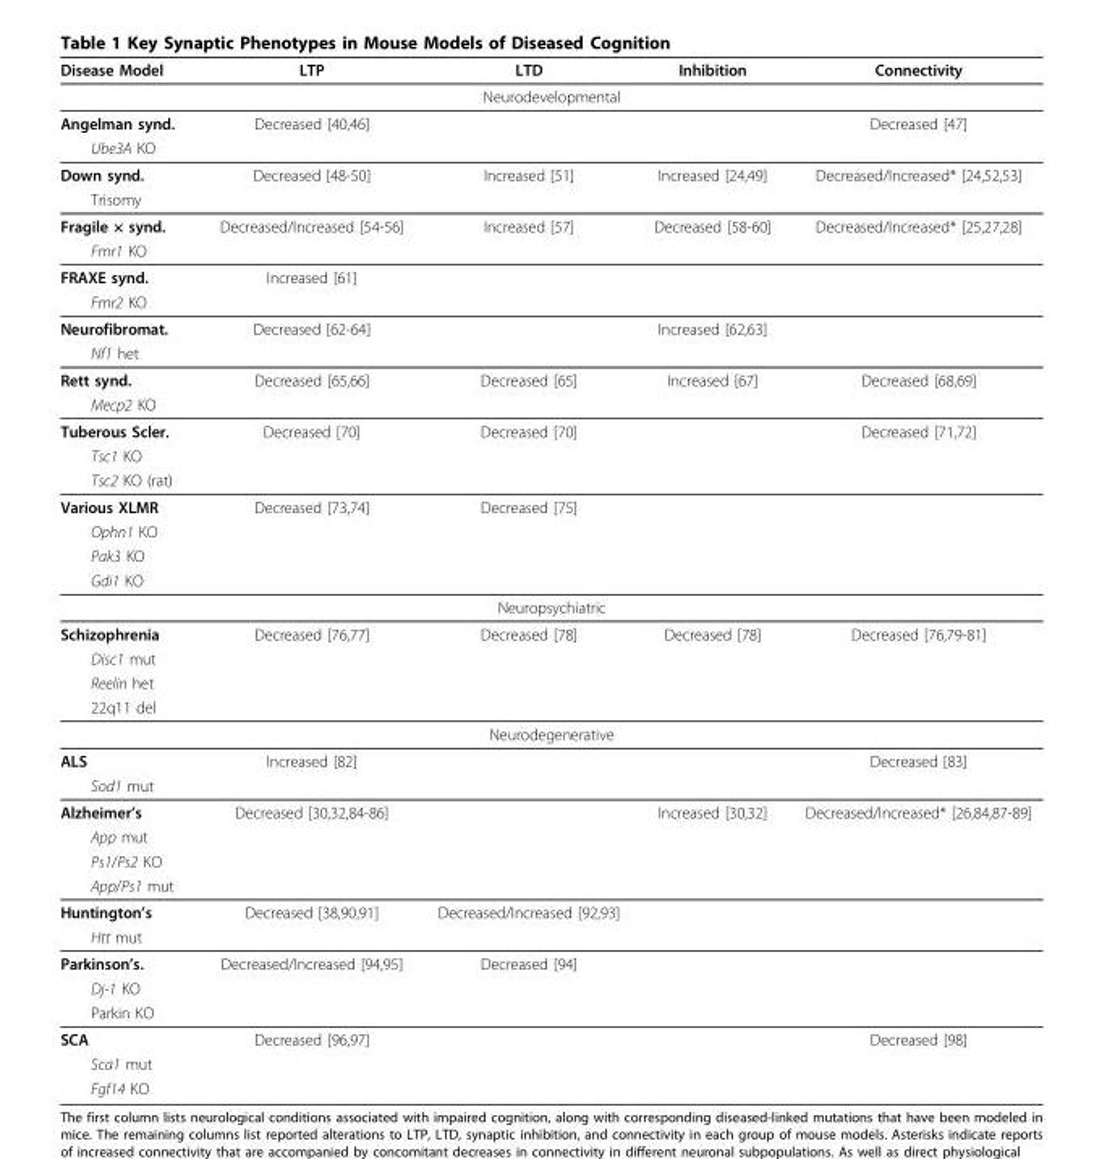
<table><thead><tr><td>Disease Model</td><td>LTP</td><td>LTD</td><td>Inhibition</td><td>Connectivity</td></tr></thead><tbody><tr><td colspan="5">Neurodevelopmental</td></tr><tr><td>Angelman synd.</td><td>Decreased [40,46]</td><td></td><td></td><td>Decreased [47]</td></tr><tr><td colspan="5">Ube3A KO</td></tr><tr><td>Down synd.</td><td>Decreased [48-50]</td><td>Increased [51]</td><td>Increased [24,49]</td><td>Decreased/Increased* [24,52,53]</td></tr><tr><td colspan="5">Trisomy</td></tr><tr><td>Fragile × synd.</td><td>Decreased/Increased [54-56]</td><td>Increased [57]</td><td>Decreased [58-60]</td><td>Decreased/Increased* [25,27,28]</td></tr><tr><td colspan="5">Fmr1 KO</td></tr><tr><td>FRAXE synd.</td><td>Increased [61]</td><td></td><td></td><td></td></tr><tr><td colspan="5">Fmr2 KO</td></tr><tr><td>Neurofibromat.</td><td>Decreased [62-64]</td><td></td><td>Increased [62,63]</td><td></td></tr><tr><td colspan="5">Nf1 het</td></tr><tr><td>Rett synd.</td><td>Decreased [65,66]</td><td>Decreased [65]</td><td>Increased [67]</td><td>Decreased [68,69]</td></tr><tr><td colspan="5">Mecp2 KO</td></tr><tr><td>Tuberous Scler.</td><td>Decreased [70]</td><td>Decreased [70]</td><td></td><td>Decreased [71,72]</td></tr><tr><td colspan="5">Tsc1 KO</td></tr><tr><td colspan="5">Tsc2 KO (rat)</td></tr><tr><td>Various XLMR</td><td>Decreased [73,74]</td><td>Decreased [75]</td><td></td><td></td></tr><tr><td colspan="5">Ophn1 KO</td></tr><tr><td colspan="5">Pak3 KO</td></tr><tr><td colspan="5">Gdi1 KO</td></tr><tr><td colspan="5">Neuropsychiatric</td></tr><tr><td>Schizophrenia</td><td>Decreased [76,77]</td><td>Decreased [78]</td><td>Decreased [78]</td><td>Decreased [76,79-81]</td></tr><tr><td colspan="5">Disc1 mut</td></tr><tr><td colspan="5">Reelin het</td></tr><tr><td colspan="5">22q11 del</td></tr><tr><td colspan="5">Neurodegenerative</td></tr><tr><td>ALS</td><td>Increased [82]</td><td></td><td></td><td>Decreased [83]</td></tr><tr><td colspan="5">Sod1 mut</td></tr><tr><td>Alzheimer’s</td><td>Decreased [30,32,84-86]</td><td></td><td>Increased [30,32]</td><td>Decreased/Increased* [26,84,87-89]</td></tr><tr><td colspan="5">App mut</td></tr><tr><td colspan="5">Ps1/Ps2 KO</td></tr><tr><td colspan="5">App/Ps1 mut</td></tr><tr><td>Huntington’s</td><td>Decreased [38,90,91]</td><td>Decreased/Increased [92,93]</td><td></td><td></td></tr><tr><td colspan="5">Htt mut</td></tr><tr><td>Parkinson’s.</td><td>Decreased/Increased [94,95]</td><td>Decreased [94]</td><td></td><td></td></tr><tr><td colspan="5">Dj-1 KO</td></tr><tr><td colspan="5">Parkin KO</td></tr><tr><td>SCA</td><td>Decreased [96,97]</td><td></td><td></td><td>Decreased [98]</td></tr><tr><td colspan="5">Sca1 mut</td></tr><tr><td>Fgf14 KO</td><td></td><td></td><td></td><td></td></tr></tbody></table>